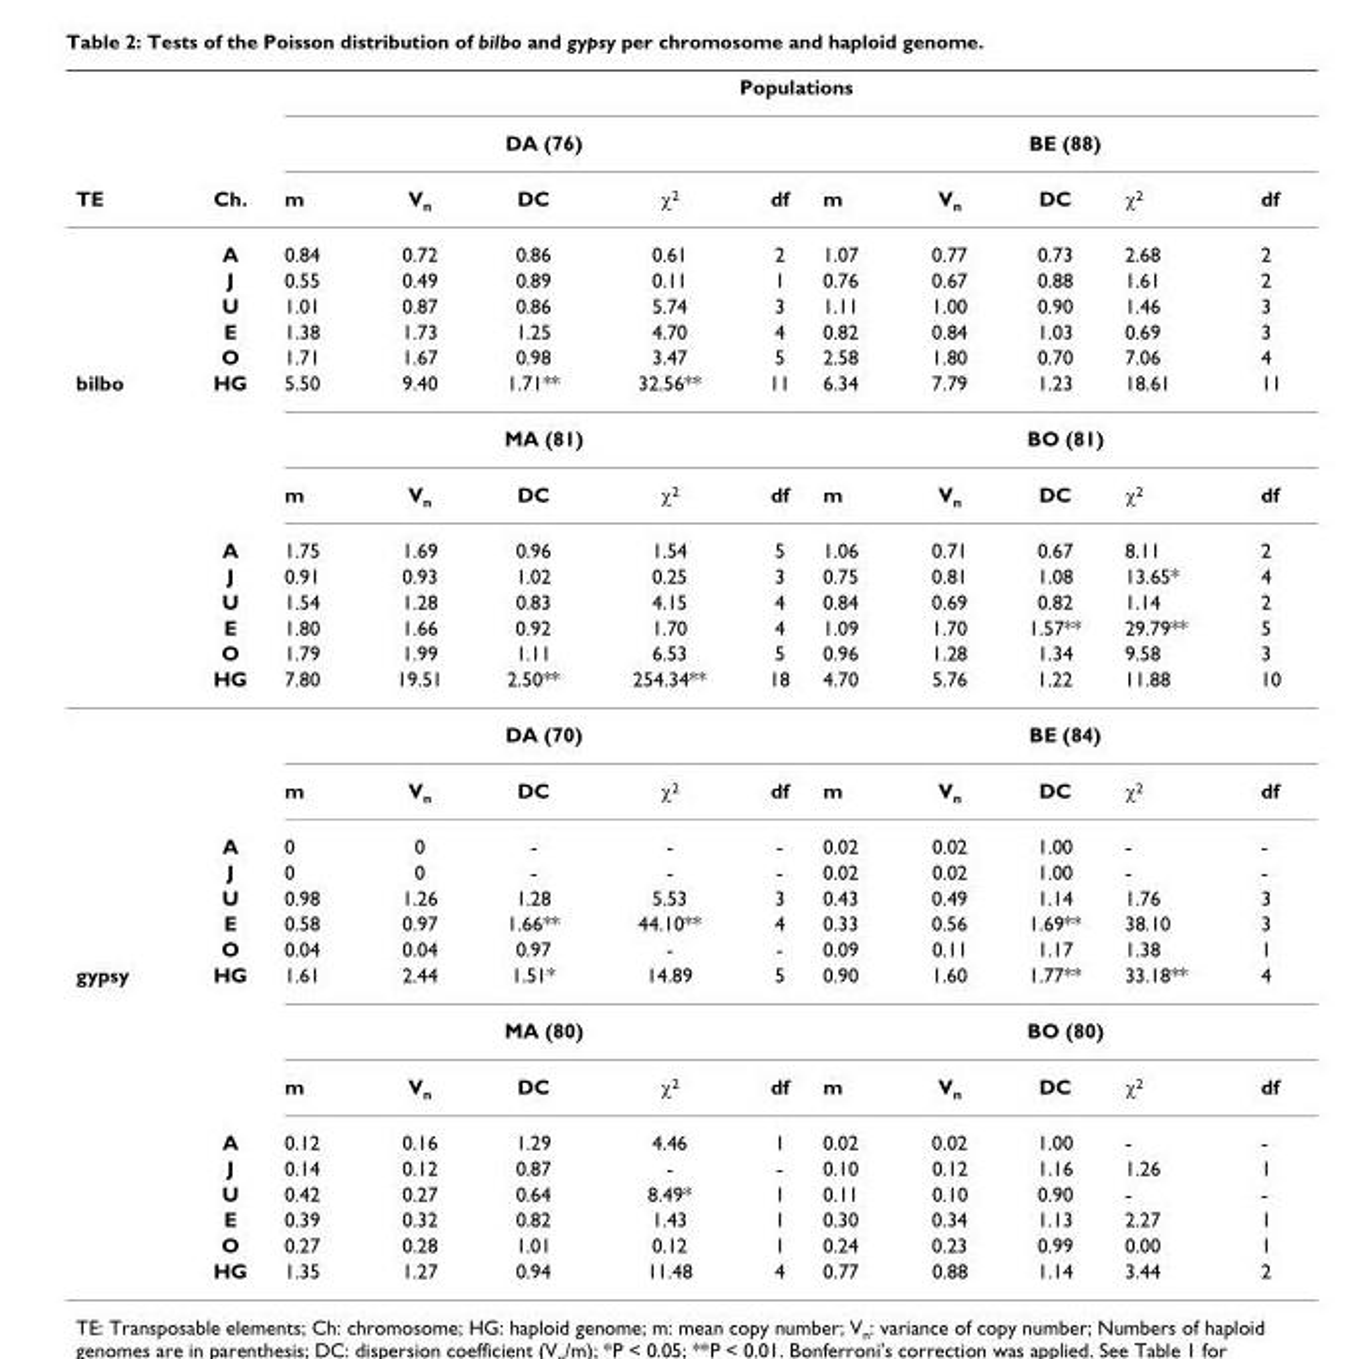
<table><thead><tr><td rowspan="3">TE</td><td rowspan="3">Ch.</td><td colspan="10">Populations</td></tr><tr><td colspan="5">DA (76)</td><td colspan="5">BE (88)</td></tr><tr><td>m</td><td>V<sub>n</sub></td><td>DC</td><td>χ<sup>2</sup></td><td>df</td><td>m</td><td>V<sub>n</sub></td><td>DC</td><td>χ<sup>2</sup></td><td>df</td></tr></thead><tbody><tr><td></td><td>A</td><td>0.84</td><td>0.72</td><td>0.86</td><td>0.61</td><td>2</td><td>1.07</td><td>0.77</td><td>0.73</td><td>2.68</td><td>2</td></tr><tr><td></td><td>J</td><td>0.55</td><td>0.49</td><td>0.89</td><td>0.11</td><td>1</td><td>0.76</td><td>0.67</td><td>0.88</td><td>1.61</td><td>2</td></tr><tr><td></td><td>U</td><td>1.01</td><td>0.87</td><td>0.86</td><td>5.74</td><td>3</td><td>1.11</td><td>1.00</td><td>0.90</td><td>1.46</td><td>3</td></tr><tr><td></td><td>E</td><td>1.38</td><td>1.73</td><td>1.25</td><td>4.70</td><td>4</td><td>0.82</td><td>0.84</td><td>1.03</td><td>0.69</td><td>3</td></tr><tr><td></td><td>O</td><td>1.71</td><td>1.67</td><td>0.98</td><td>3.47</td><td>5</td><td>2.58</td><td>1.80</td><td>0.70</td><td>7.06</td><td>4</td></tr><tr><td rowspan="16">bilbo</td><td>HG</td><td>5.50</td><td>9.40</td><td>1.71**</td><td>32.56**</td><td>11</td><td>6.34</td><td>7.79</td><td>1.23</td><td>18.61</td><td>11</td></tr><tr><td></td><td colspan="5">MA (81)</td><td colspan="5">BO (81)</td></tr><tr><td></td><td>m</td><td>V<sub>n</sub></td><td>DC</td><td>χ<sup>2</sup></td><td>df</td><td>m</td><td>V<sub>n</sub></td><td>DC</td><td>χ<sup>2</sup></td><td>df</td></tr><tr><td>A</td><td>1.75</td><td>1.69</td><td>0.96</td><td>1.54</td><td>5</td><td>1.06</td><td>0.71</td><td>0.67</td><td>8.11</td><td>2</td></tr><tr><td>J</td><td>0.91</td><td>0.93</td><td>1.02</td><td>0.25</td><td>3</td><td>0.75</td><td>0.81</td><td>1.08</td><td>13.65*</td><td>4</td></tr><tr><td>U</td><td>1.54</td><td>1.28</td><td>0.83</td><td>4.15</td><td>4</td><td>0.84</td><td>0.69</td><td>0.82</td><td>1.14</td><td>2</td></tr><tr><td>E</td><td>1.80</td><td>1.66</td><td>0.92</td><td>1.70</td><td>4</td><td>1.09</td><td>1.70</td><td>1.57**</td><td>29.79**</td><td>5</td></tr><tr><td>O</td><td>1.79</td><td>1.99</td><td>1.11</td><td>6.53</td><td>5</td><td>0.96</td><td>1.28</td><td>1.34</td><td>9.58</td><td>3</td></tr><tr><td>HG</td><td>7.80</td><td>19.51</td><td>2.50**</td><td>254.34**</td><td>18</td><td>4.70</td><td>5.76</td><td>1.22</td><td>11.88</td><td>10</td></tr><tr><td></td><td colspan="5">DA (70)</td><td colspan="5">BE (84)</td></tr><tr><td></td><td>m</td><td>V<sub>n</sub></td><td>DC</td><td>χ<sup>2</sup></td><td>df</td><td>m</td><td>V<sub>n</sub></td><td>DC</td><td>χ<sup>2</sup></td><td>df</td></tr><tr><td>A</td><td>0</td><td>0</td><td>-</td><td>-</td><td>-</td><td>0.02</td><td>0.02</td><td>1.00</td><td>-</td><td>-</td></tr><tr><td>J</td><td>0</td><td>0</td><td>-</td><td>-</td><td>-</td><td>0.02</td><td>0.02</td><td>1.00</td><td>-</td><td>-</td></tr><tr><td>U</td><td>0.98</td><td>1.26</td><td>1.28</td><td>5.53</td><td>3</td><td>0.43</td><td>0.49</td><td>1.14</td><td>1.76</td><td>3</td></tr><tr><td>E</td><td>0.58</td><td>0.97</td><td>1.66**</td><td>44.10**</td><td>4</td><td>0.33</td><td>0.56</td><td>1.69**</td><td>38.10</td><td>3</td></tr><tr><td>O</td><td>0.04</td><td>0.04</td><td>0.97</td><td>-</td><td>-</td><td>0.09</td><td>0.11</td><td>1.17</td><td>1.38</td><td>1</td></tr><tr><td rowspan="9">gypsy</td><td>HG</td><td>1.61</td><td>2.44</td><td>1.51*</td><td>14.89</td><td>5</td><td>0.90</td><td>1.60</td><td>1.77**</td><td>33.18**</td><td>4</td></tr><tr><td></td><td colspan="5">MA (80)</td><td colspan="5">BO (80)</td></tr><tr><td></td><td>m</td><td>V<sub>n</sub></td><td>DC</td><td>χ<sup>2</sup></td><td>df</td><td>m</td><td>V<sub>n</sub></td><td>DC</td><td>χ<sup>2</sup></td><td>df</td></tr><tr><td>A</td><td>0.12</td><td>0.16</td><td>1.29</td><td>4.46</td><td>1</td><td>0.02</td><td>0.02</td><td>1.00</td><td>-</td><td>-</td></tr><tr><td>J</td><td>0.14</td><td>0.12</td><td>0.87</td><td>-</td><td>-</td><td>0.10</td><td>0.12</td><td>1.16</td><td>1.26</td><td>1</td></tr><tr><td>U</td><td>0.42</td><td>0.27</td><td>0.64</td><td>8.49*</td><td>1</td><td>0.11</td><td>0.10</td><td>0.90</td><td>-</td><td>-</td></tr><tr><td>E</td><td>0.39</td><td>0.32</td><td>0.82</td><td>1.43</td><td>1</td><td>0.30</td><td>0.34</td><td>1.13</td><td>2.27</td><td>1</td></tr><tr><td>O</td><td>0.27</td><td>0.28</td><td>1.01</td><td>0.12</td><td>1</td><td>0.24</td><td>0.23</td><td>0.99</td><td>0.00</td><td>1</td></tr><tr><td>HG</td><td>1.35</td><td>1.27</td><td>0.94</td><td>11.48</td><td>4</td><td>0.77</td><td>0.88</td><td>1.14</td><td>3.44</td><td>2</td></tr></tbody></table>